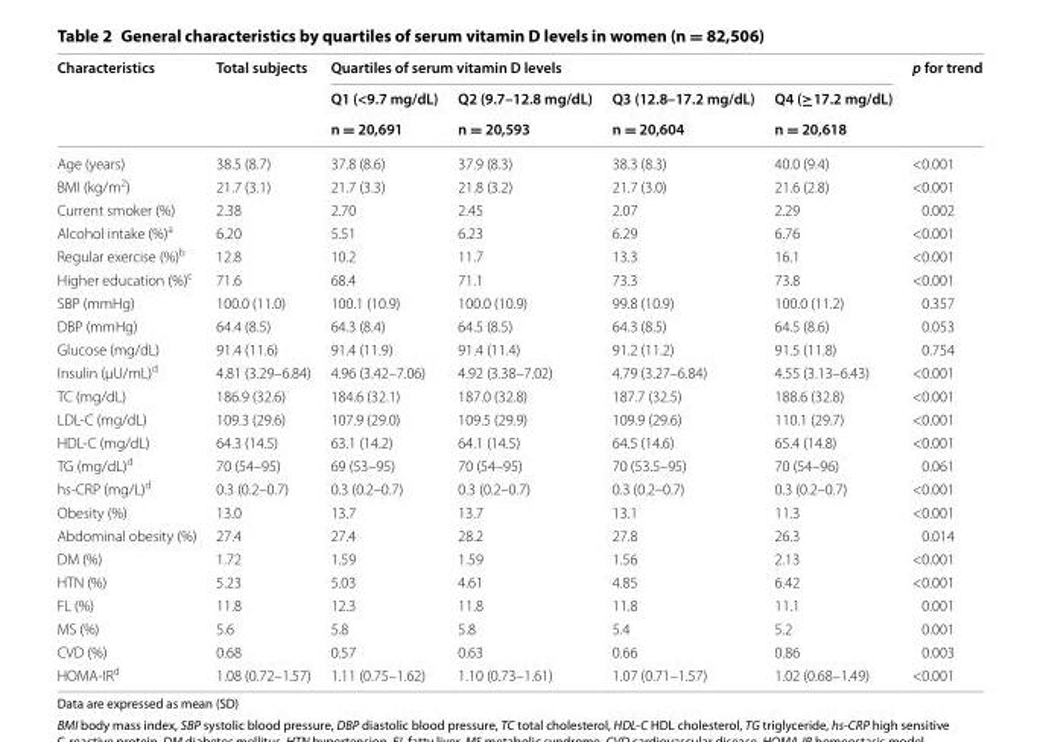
<table><thead><tr><td rowspan="3">Characteristics</td><td rowspan="3">Total subjects</td><td colspan="4">Quartiles of serum vitamin D levels</td><td rowspan="3">p for trend</td></tr><tr><td rowspan="2">Q1 (&lt;9.7 mg/dL) n = 20,691</td><td rowspan="2">Q2 (9.7–12.8 mg/dL) n = 20,593</td><td rowspan="2">Q3 (12.8–17.2 mg/dL) n = 20,604</td><td rowspan="2">Q4 (≥17.2 mg/dL) n = 20,618</td></tr><tr></tr></thead><tbody><tr><td>Age (years)</td><td>38.5 (8.7)</td><td>37.8 (8.6)</td><td>37.9 (8.3)</td><td>38.3 (8.3)</td><td>40.0 (9.4)</td><td>&lt;0.001</td></tr><tr><td>BMI (kg/m<sup>2</sup>)</td><td>21.7 (3.1)</td><td>21.7 (3.3)</td><td>21.8 (3.2)</td><td>21.7 (3.0)</td><td>21.6 (2.8)</td><td>&lt;0.001</td></tr><tr><td>Current smoker (%)</td><td>2.38</td><td>2.70</td><td>2.45</td><td>2.07</td><td>2.29</td><td>0.002</td></tr><tr><td>Alcohol intake (%)<sup>a</sup></td><td>6.20</td><td>5.51</td><td>6.23</td><td>6.29</td><td>6.76</td><td>&lt;0.001</td></tr><tr><td>Regular exercise (%)<sup>b</sup></td><td>12.8</td><td>10.2</td><td>11.7</td><td>13.3</td><td>16.1</td><td>&lt;0.001</td></tr><tr><td>Higher education (%)<sup>c</sup></td><td>71.6</td><td>68.4</td><td>71.1</td><td>73.3</td><td>73.8</td><td>&lt;0.001</td></tr><tr><td>SBP (mmHg)</td><td>100.0 (11.0)</td><td>100.1 (10.9)</td><td>100.0 (10.9)</td><td>99.8 (10.9)</td><td>100.0 (11.2)</td><td>0.357</td></tr><tr><td>DBP (mmHg)</td><td>64.4 (8.5)</td><td>64.3 (8.4)</td><td>64.5 (8.5)</td><td>64.3 (8.5)</td><td>64.5 (8.6)</td><td>0.053</td></tr><tr><td>Glucose (mg/dL)</td><td>91.4 (11.6)</td><td>91.4 (11.9)</td><td>91.4 (11.4)</td><td>91.2 (11.2)</td><td>91.5 (11.8)</td><td>0.754</td></tr><tr><td>Insulin (μU/mL)<sup>d</sup></td><td>4.81 (3.29–6.84)</td><td>4.96 (3.42–7.06)</td><td>4.92 (3.38–7.02)</td><td>4.79 (3.27–6.84)</td><td>4.55 (3.13–6.43)</td><td>&lt;0.001</td></tr><tr><td>TC (mg/dL)</td><td>186.9 (32.6)</td><td>184.6 (32.1)</td><td>187.0 (32.8)</td><td>187.7 (32.5)</td><td>188.6 (32.8)</td><td>&lt;0.001</td></tr><tr><td>LDL‑C (mg/dL)</td><td>109.3 (29.6)</td><td>107.9 (29.0)</td><td>109.5 (29.9)</td><td>109.9 (29.6)</td><td>110.1 (29.7)</td><td>&lt;0.001</td></tr><tr><td>HDL‑C (mg/dL)</td><td>64.3 (14.5)</td><td>63.1 (14.2)</td><td>64.1 (14.5)</td><td>64.5 (14.6)</td><td>65.4 (14.8)</td><td>&lt;0.001</td></tr><tr><td>TG (mg/dL)<sup>d</sup></td><td>70 (54–95)</td><td>69 (53–95)</td><td>70 (54–95)</td><td>70 (53.5–95)</td><td>70 (54–96)</td><td>0.061</td></tr><tr><td>hs‑CRP (mg/L)<sup>d</sup></td><td>0.3 (0.2–0.7)</td><td>0.3 (0.2–0.7)</td><td>0.3 (0.2–0.7)</td><td>0.3 (0.2–0.7)</td><td>0.3 (0.2–0.7)</td><td>&lt;0.001</td></tr><tr><td>Obesity (%)</td><td>13.0</td><td>13.7</td><td>13.7</td><td>13.1</td><td>11.3</td><td>&lt;0.001</td></tr><tr><td>Abdominal obesity (%)</td><td>27.4</td><td>27.4</td><td>28.2</td><td>27.8</td><td>26.3</td><td>0.014</td></tr><tr><td>DM (%)</td><td>1.72</td><td>1.59</td><td>1.59</td><td>1.56</td><td>2.13</td><td>&lt;0.001</td></tr><tr><td>HTN (%)</td><td>5.23</td><td>5.03</td><td>4.61</td><td>4.85</td><td>6.42</td><td>&lt;0.001</td></tr><tr><td>FL (%)</td><td>11.8</td><td>12.3</td><td>11.8</td><td>11.8</td><td>11.1</td><td>0.001</td></tr><tr><td>MS (%)</td><td>5.6</td><td>5.8</td><td>5.8</td><td>5.4</td><td>5.2</td><td>0.001</td></tr><tr><td>CVD (%)</td><td>0.68</td><td>0.57</td><td>0.63</td><td>0.66</td><td>0.86</td><td>0.003</td></tr><tr><td>HOMA‑IR<sup>d</sup></td><td>1.08 (0.72–1.57)</td><td>1.11 (0.75–1.62)</td><td>1.10 (0.73–1.61)</td><td>1.07 (0.71–1.57)</td><td>1.02 (0.68–1.49)</td><td>&lt;0.001</td></tr></tbody></table>